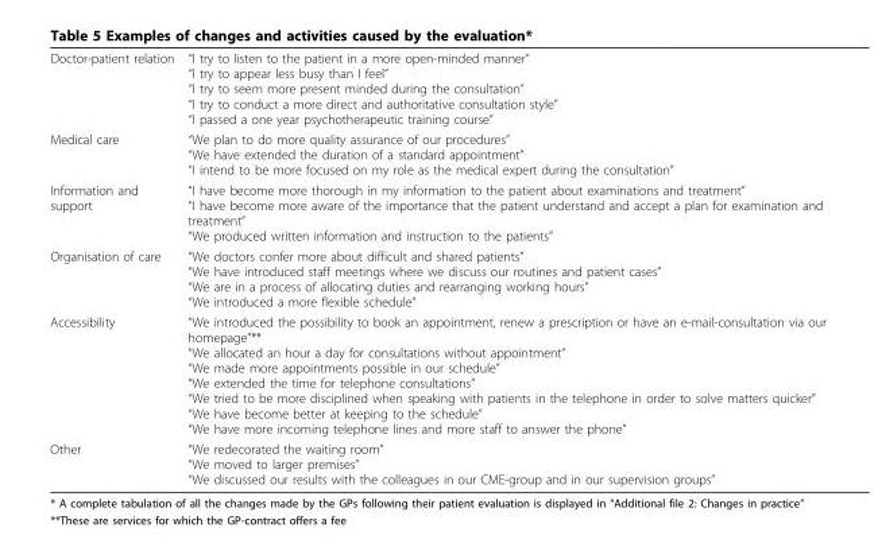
<table><tbody><tr><td>Doctor-patient relation</td><td>“I try to listen to the patient in a more open-minded manner” “I try to appear less busy than I feel” “I try to seem more present minded during the consultation” “I try to conduct a more direct and authoritative consultation style” “I passed a one year psychotherapeutic training course”</td></tr><tr><td>Medical care</td><td>“We plan to do more quality assurance of our procedures” “We have extended the duration of a standard appointment” “I intend to be more focused on my role as the medical expert during the consultation”</td></tr><tr><td>Information and support</td><td>“I have become more thorough in my information to the patient about examinations and treatment” “I have become more aware of the importance that the patient understand and accept a plan for examination and treatment” “We produced written information and instruction to the patients”</td></tr><tr><td>Organisation of care</td><td>“We doctors confer more about difficult and shared patients” “We have introduced staff meetings where we discuss our routines and patient cases” “We are in a process of allocating duties and rearranging working hours” “We introduced a more flexible schedule”</td></tr><tr><td>Accessibility</td><td>“We introduced the possibility to book an appointment, renew a prescription or have an e-mail-consultation via our homepage&quot;** “We allocated an hour a day for consultations without appointment” “We made more appointments possible in our schedule” “We extended the time for telephone consultations” “We tried to be more disciplined when speaking with patients in the telephone in order to solve matters quicker” “We have become better at keeping to the schedule” “We have more incoming telephone lines and more staff to answer the phone”</td></tr><tr><td>Other</td><td>“We redecorated the waiting room” “We moved to larger premises” “We discussed our results with the colleagues in our CME-group and in our supervision groups”</td></tr></tbody></table>